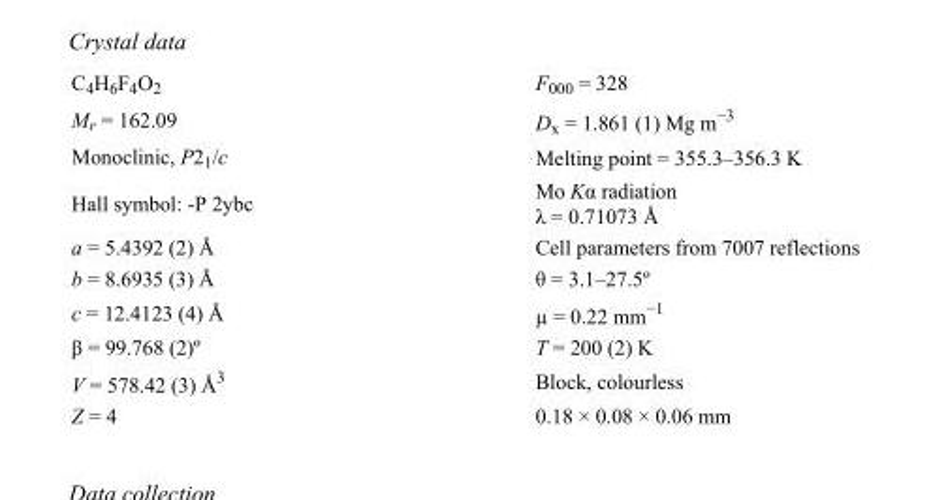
<table><tbody><tr><td>C<sub>4</sub>H<sub>6</sub>F<sub>4</sub>O<sub>2</sub></td><td>F000 = 328</td></tr><tr><td>M<sub>r</sub> = 162.09</td><td>D<sub>x</sub> = 1.861 (1) Mg m<sup>−3</sup></td></tr><tr><td>Monoclinic, P2<sub>1</sub>/c</td><td>Melting point = 355.3–356.3 K</td></tr><tr><td>Hall symbol: -P 2ybc</td><td>Mo Kα radiation λ = 0.71073 Å</td></tr><tr><td>a = 5.4392 (2) Å</td><td>Cell parameters from 7007 reflections</td></tr><tr><td>b = 8.6935 (3) Å</td><td>θ = 3.1–27.5º</td></tr><tr><td>c = 12.4123 (4) Å</td><td>µ = 0.22 mm<sup>−1</sup></td></tr><tr><td>β = 99.768 (2)º</td><td>T = 200 (2) K</td></tr><tr><td>V = 578.42 (3) Å<sup>3</sup></td><td>Block, colourless</td></tr><tr><td>Z = 4</td><td>0.18 × 0.08 × 0.06 mm</td></tr></tbody></table>